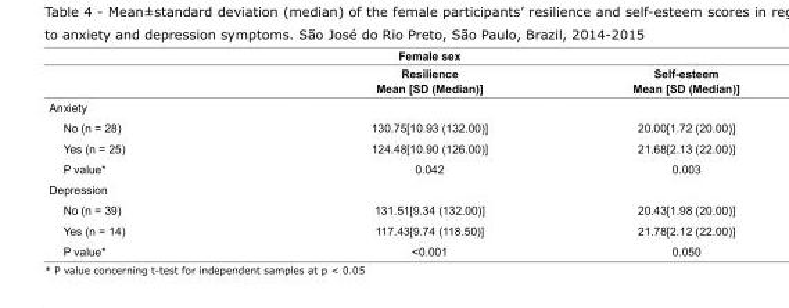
<table><thead><tr><td colspan="3">Female sex</td></tr><tr><td></td><td>Resilience Mean [SD (Median)]</td><td>Self-esteem Mean [SD (Median)]</td></tr></thead><tbody><tr><td colspan="3">Anxiety</td></tr><tr><td>No (n = 28)</td><td>130.75[10.93 (132.00)]</td><td>20.00[1.72 (20.00)]</td></tr><tr><td>Yes (n = 25)</td><td>124.48[10.90 (126.00)]</td><td>21.68[2.13 (22.00)]</td></tr><tr><td>P value*</td><td>0.042</td><td>0.003</td></tr><tr><td colspan="3">Depression</td></tr><tr><td>No (n = 39)</td><td>131.51[9.34 (132.00)]</td><td>20.43[1.98 (20.00)]</td></tr><tr><td>Yes (n = 14)</td><td>117.43[9.74 (118.50)]</td><td>21.78[2.12 (22.00)]</td></tr><tr><td>P value*</td><td>&lt;0.001</td><td>0.050</td></tr></tbody></table>